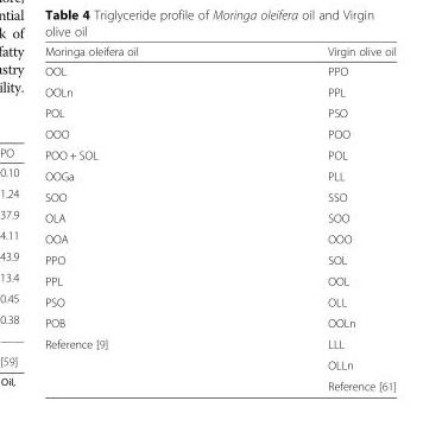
<table><thead><tr><td>Moringa oleifera oil</td><td>Virgin olive oil</td></tr></thead><tbody><tr><td>OOL</td><td>PPO</td></tr><tr><td>OOLn</td><td>PPL</td></tr><tr><td>POL</td><td>PSO</td></tr><tr><td>OOO</td><td>POO</td></tr><tr><td>POO + SOL</td><td>POL</td></tr><tr><td>OOGa</td><td>PLL</td></tr><tr><td>SOO</td><td>SSO</td></tr><tr><td>OLA</td><td>SOO</td></tr><tr><td>OOA</td><td>OOO</td></tr><tr><td>PPO</td><td>SOL</td></tr><tr><td>PPL</td><td>OOL</td></tr><tr><td>PSO</td><td>OLL</td></tr><tr><td>POB</td><td>OOLn</td></tr><tr><td rowspan="3">Reference [9]</td><td>LLL</td></tr><tr><td>OLLn</td></tr><tr><td>Reference [61]</td></tr></tbody></table>